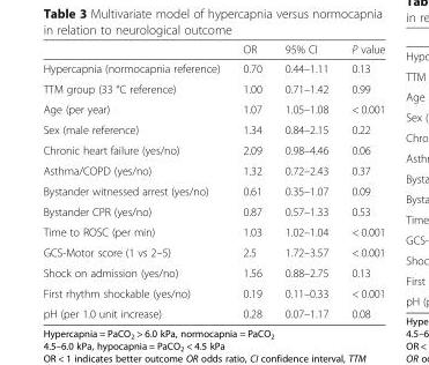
<table><thead><tr><td></td><td>OR</td><td>95% CI</td><td>P value</td></tr></thead><tbody><tr><td>Hypercapnia (normocapnia reference)</td><td>0.70</td><td>0.44–1.11</td><td>0.13</td></tr><tr><td>TTM group (33 °C reference)</td><td>1.00</td><td>0.71–1.42</td><td>0.99</td></tr><tr><td>Age (per year)</td><td>1.07</td><td>1.05–1.08</td><td>&lt; 0.001</td></tr><tr><td>Sex (male reference)</td><td>1.34</td><td>0.84–2.15</td><td>0.22</td></tr><tr><td>Chronic heart failure (yes/no)</td><td>2.09</td><td>0.98–4.46</td><td>0.06</td></tr><tr><td>Asthma/COPD (yes/no)</td><td>1.32</td><td>0.72–2.43</td><td>0.37</td></tr><tr><td>Bystander witnessed arrest (yes/no)</td><td>0.61</td><td>0.35–1.07</td><td>0.09</td></tr><tr><td>Bystander CPR (yes/no)</td><td>0.87</td><td>0.57–1.33</td><td>0.53</td></tr><tr><td>Time to ROSC (per min)</td><td>1.03</td><td>1.02–1.04</td><td>&lt; 0.001</td></tr><tr><td>GCS-Motor score (1 vs 2–5)</td><td>2.5</td><td>1.72–3.57</td><td>&lt; 0.001</td></tr><tr><td>Shock on admission (yes/no)</td><td>1.56</td><td>0.88–2.75</td><td>0.13</td></tr><tr><td>First rhythm shockable (yes/no)</td><td>0.19</td><td>0.11–0.33</td><td>&lt; 0.001</td></tr><tr><td>pH (per 1.0 unit increase)</td><td>0.28</td><td>0.07–1.17</td><td>0.08</td></tr></tbody></table>